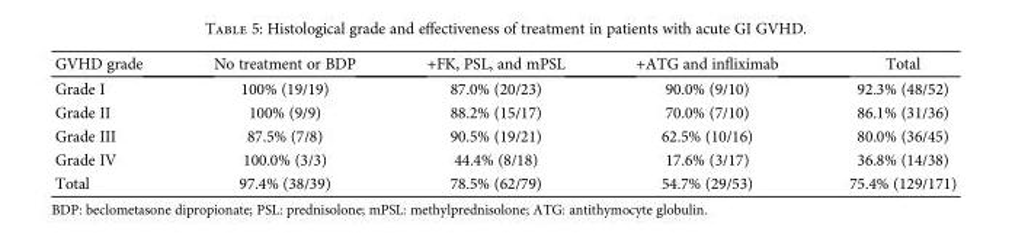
<table><thead><tr><td>GVHD grade</td><td>No treatment or BDP</td><td>+FK, PSL, and mPSL</td><td>+ATG and infliximab</td><td>Total</td></tr></thead><tbody><tr><td>Grade I</td><td>100% (19/19)</td><td>87.0% (20/23)</td><td>90.0% (9/10)</td><td>92.3% (48/52)</td></tr><tr><td>Grade II</td><td>100% (9/9)</td><td>88.2% (15/17)</td><td>70.0% (7/10)</td><td>86.1% (31/36)</td></tr><tr><td>Grade III</td><td>87.5% (7/8)</td><td>90.5% (19/21)</td><td>62.5% (10/16)</td><td>80.0% (36/45)</td></tr><tr><td>Grade IV</td><td>100.0% (3/3)</td><td>44.4% (8/18)</td><td>17.6% (3/17)</td><td>36.8% (14/38)</td></tr><tr><td>Total</td><td>97.4% (38/39)</td><td>78.5% (62/79)</td><td>54.7% (29/53)</td><td>75.4% (129/171)</td></tr></tbody></table>